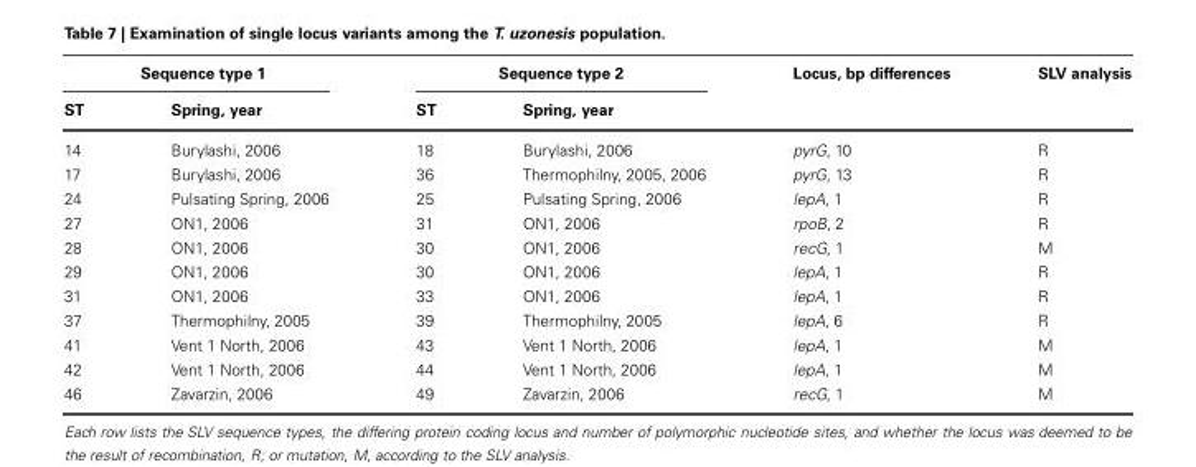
<table><thead><tr><td colspan="2">Sequence type 1</td><td colspan="2">Sequence type 2</td><td rowspan="2">Locus, bp differences</td><td rowspan="2">SLV analysis</td></tr><tr><td>ST</td><td>Spring, year</td><td>ST</td><td>Spring, year</td></tr></thead><tbody><tr><td>14</td><td>Burylashi, 2006</td><td>18</td><td>Burylashi, 2006</td><td>pyrG, 10</td><td>R</td></tr><tr><td>17</td><td>Burylashi, 2006</td><td>36</td><td>Thermophilny, 2005, 2006</td><td>pyrG, 13</td><td>R</td></tr><tr><td>24</td><td>Pulsating Spring, 2006</td><td>25</td><td>Pulsating Spring, 2006</td><td>lepA, 1</td><td>R</td></tr><tr><td>27</td><td>ON1, 2006</td><td>31</td><td>ON1, 2006</td><td>rpoB, 2</td><td>R</td></tr><tr><td>28</td><td>ON1, 2006</td><td>30</td><td>ON1, 2006</td><td>recG, 1</td><td>M</td></tr><tr><td>29</td><td>ON1, 2006</td><td>30</td><td>ON1, 2006</td><td>lepA, 1</td><td>R</td></tr><tr><td>31</td><td>ON1, 2006</td><td>33</td><td>ON1, 2006</td><td>lepA, 1</td><td>R</td></tr><tr><td>37</td><td>Thermophilny, 2005</td><td>39</td><td>Thermophilny, 2005</td><td>lepA, 6</td><td>R</td></tr><tr><td>41</td><td>Vent 1 North, 2006</td><td>43</td><td>Vent 1 North, 2006</td><td>lepA, 1</td><td>M</td></tr><tr><td>42</td><td>Vent 1 North, 2006</td><td>44</td><td>Vent 1 North, 2006</td><td>lepA, 1</td><td>M</td></tr><tr><td>46</td><td>Zavarzin, 2006</td><td>49</td><td>Zavarzin, 2006</td><td>recG, 1</td><td>M</td></tr></tbody></table>